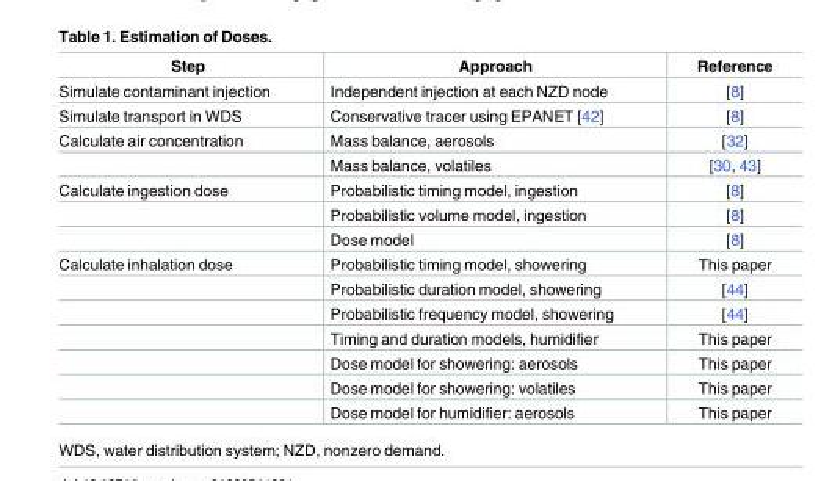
<table><thead><tr><td>Step</td><td>Approach</td><td>Reference</td></tr></thead><tbody><tr><td>Simulate contaminant injection</td><td>Independent injection at each NZD node</td><td>[8]</td></tr><tr><td>Simulate transport in WDS</td><td>Conservative tracer using EPANET [42]</td><td>[8]</td></tr><tr><td rowspan="2">Calculate air concentration</td><td>Mass balance, aerosols</td><td>[32]</td></tr><tr><td>Mass balance, volatiles</td><td>[30, 43]</td></tr><tr><td rowspan="3">Calculate ingestion dose</td><td>Probabilistic timing model, ingestion</td><td>[8]</td></tr><tr><td>Probabilistic volume model, ingestion</td><td>[8]</td></tr><tr><td>Dose model</td><td>[8]</td></tr><tr><td rowspan="7">Calculate inhalation dose</td><td>Probabilistic timing model, showering</td><td>This paper</td></tr><tr><td>Probabilistic duration model, showering</td><td>[44]</td></tr><tr><td>Probabilistic frequency model, showering</td><td>[44]</td></tr><tr><td>Timing and duration models, humidifier</td><td>This paper</td></tr><tr><td>Dose model for showering: aerosols</td><td>This paper</td></tr><tr><td>Dose model for showering: volatiles</td><td>This paper</td></tr><tr><td>Dose model for humidifier: aerosols</td><td>This paper</td></tr></tbody></table>